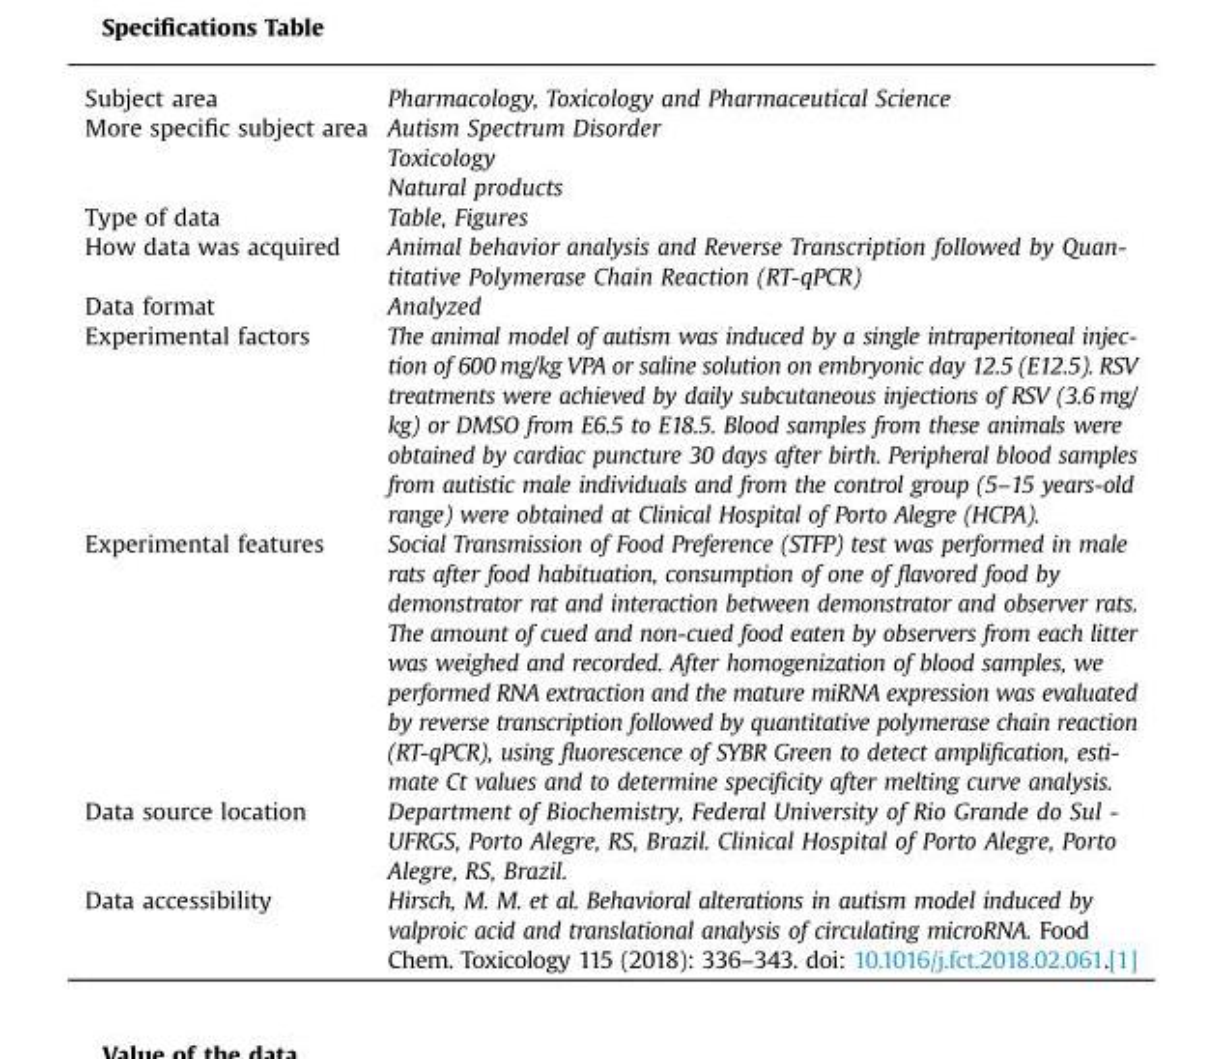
<table><thead><tr><td>Subject area</td><td>Pharmacology, Toxicology and Pharmaceutical Science</td></tr></thead><tbody><tr><td rowspan="3">More specific subject area</td><td>Autism Spectrum Disorder</td></tr><tr><td>Toxicology</td></tr><tr><td>Natural products</td></tr><tr><td>Type of data</td><td>Table, Figures</td></tr><tr><td>How data was acquired</td><td>Animal behavior analysis and Reverse Transcription followed by Quan- titative Polymerase Chain Reaction (RT-qPCR)</td></tr><tr><td>Data format</td><td>Analyzed</td></tr><tr><td>Experimental factors</td><td>The animal model of autism was induced by a single intraperitoneal injec- tion of 600 mg/kg VPA or saline solution on embryonic day 12.5 (E12.5). RSV treatments were achieved by daily subcutaneous injections of RSV (3.6 mg/ kg) or DMSO from E6.5 to E18.5. Blood samples from these animals were obtained by cardiac puncture 30 days after birth. Peripheral blood samples from autistic male individuals and from the control group (5–15 years-old range) were obtained at Clinical Hospital of Porto Alegre (HCPA).</td></tr><tr><td>Experimental features</td><td>Social Transmission of Food Preference (STFP) test was performed in male rats after food habituation, consumption of one of flavored food by demonstrator rat and interaction between demonstrator and observer rats. The amount of cued and non-cued food eaten by observers from each litter was weighed and recorded. After homogenization of blood samples, we performed RNA extraction and the mature miRNA expression was evaluated by reverse transcription followed by quantitative polymerase chain reaction (RT-qPCR), using fluorescence of SYBR Green to detect amplification, esti- mate Ct values and to determine specificity after melting curve analysis.</td></tr><tr><td>Data source location</td><td>Department of Biochemistry, Federal University of Rio Grande do Sul - UFRGS, Porto Alegre, RS, Brazil. Clinical Hospital of Porto Alegre, Porto Alegre, RS, Brazil.</td></tr><tr><td>Data accessibility</td><td>Hirsch, M. M. et al. Behavioral alterations in autism model induced by valproic acid and translational analysis of circulating microRNA. Food Chem. Toxicology 115 (2018): 336–343. doi: 10.1016/j.fct.2018.02.061.[1]</td></tr></tbody></table>